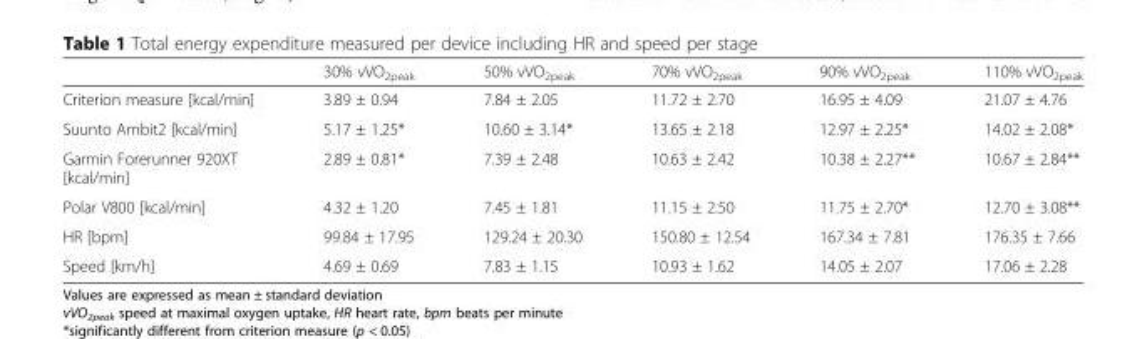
<table><thead><tr><td></td><td>30% vVO<sub>2peak</sub></td><td>50% vVO<sub>2peak</sub></td><td>70% vVO<sub>2peak</sub></td><td>90% vVO<sub>2peak</sub></td><td>110% vVO<sub>2peak</sub></td></tr></thead><tbody><tr><td>Criterion measure [kcal/min]</td><td>3.89 ± 0.94</td><td>7.84 ± 2.05</td><td>11.72 ± 2.70</td><td>16.95 ± 4.09</td><td>21.07 ± 4.76</td></tr><tr><td>Suunto Ambit2 [kcal/min]</td><td>5.17 ± 1.25*</td><td>10.60 ± 3.14*</td><td>13.65 ± 2.18</td><td>12.97 ± 2.25*</td><td>14.02 ± 2.08*</td></tr><tr><td>Garmin Forerunner 920XT [kcal/min]</td><td>2.89 ± 0.81*</td><td>7.39 ± 2.48</td><td>10.63 ± 2.42</td><td>10.38 ± 2.27**</td><td>10.67 ± 2.84**</td></tr><tr><td>Polar V800 [kcal/min]</td><td>4.32 ± 1.20</td><td>7.45 ± 1.81</td><td>11.15 ± 2.50</td><td>11.75 ± 2.70*</td><td>12.70 ± 3.08**</td></tr><tr><td>HR [bpm]</td><td>99.84 ± 17.95</td><td>129.24 ± 20.30</td><td>150.80 ± 12.54</td><td>167.34 ± 7.81</td><td>176.35 ± 7.66</td></tr><tr><td>Speed [km/h]</td><td>4.69 ± 0.69</td><td>7.83 ± 1.15</td><td>10.93 ± 1.62</td><td>14.05 ± 2.07</td><td>17.06 ± 2.28</td></tr></tbody></table>